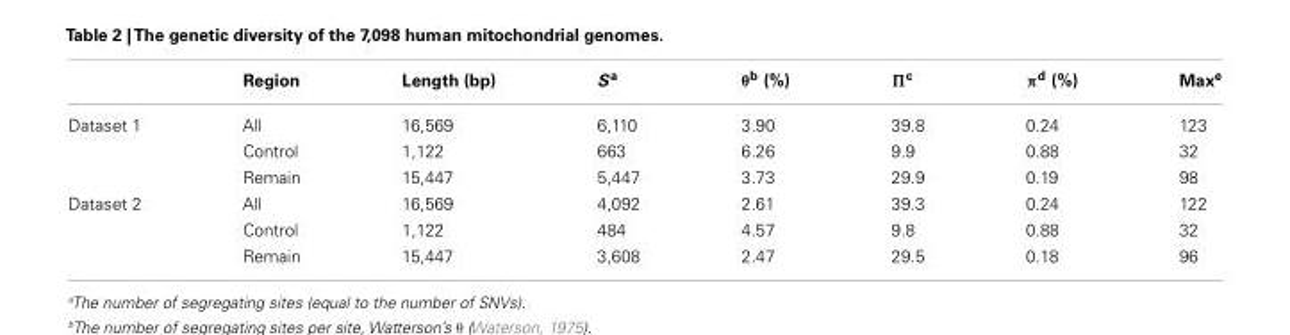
<table><thead><tr><td></td><td>Region</td><td>Length (bp)</td><td>S<sup>a</sup></td><td>θ<sup>b</sup> (%)</td><td>Π<sup>c</sup></td><td>π<sup>d</sup> (%)</td><td>Max<sup>e</sup></td></tr></thead><tbody><tr><td rowspan="3">Dataset 1</td><td>All</td><td>16,569</td><td>6,110</td><td>3.90</td><td>39.8</td><td>0.24</td><td>123</td></tr><tr><td>Control</td><td>1,122</td><td>663</td><td>6.26</td><td>9.9</td><td>0.88</td><td>32</td></tr><tr><td>Remain</td><td>15,447</td><td>5,447</td><td>3.73</td><td>29.9</td><td>0.19</td><td>98</td></tr><tr><td rowspan="3">Dataset 2</td><td>All</td><td>16,569</td><td>4,092</td><td>2.61</td><td>39.3</td><td>0.24</td><td>122</td></tr><tr><td>Control</td><td>1,122</td><td>484</td><td>4.57</td><td>9.8</td><td>0.88</td><td>32</td></tr><tr><td>Remain</td><td>15,447</td><td>3,608</td><td>2.47</td><td>29.5</td><td>0.18</td><td>96</td></tr></tbody></table>